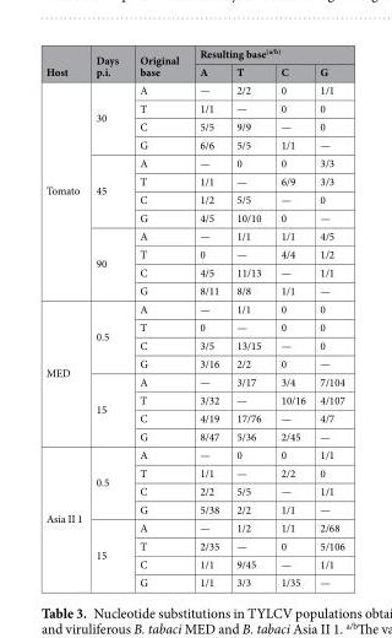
<table><thead><tr><td rowspan="2">Host</td><td rowspan="2">Days p.i.</td><td rowspan="2">Original base</td><td colspan="4">Resulting base<sup>(a/b)</sup></td></tr><tr><td>A</td><td>T</td><td>C</td><td>G</td></tr></thead><tbody><tr><td rowspan="12">Tomato</td><td rowspan="4">30</td><td>A</td><td>—</td><td>2/2</td><td>0</td><td>1/1</td></tr><tr><td>T</td><td>1/1</td><td>—</td><td>0</td><td>0</td></tr><tr><td>C</td><td>5/5</td><td>9/9</td><td>—</td><td>0</td></tr><tr><td>G</td><td>6/6</td><td>5/5</td><td>1/1</td><td>—</td></tr><tr><td rowspan="4">45</td><td>A</td><td>—</td><td>0</td><td>0</td><td>3/3</td></tr><tr><td>T</td><td>1/1</td><td>—</td><td>6/9</td><td>3/3</td></tr><tr><td>C</td><td>1/2</td><td>5/5</td><td>—</td><td>0</td></tr><tr><td>G</td><td>4/5</td><td>10/10</td><td>0</td><td>—</td></tr><tr><td rowspan="4">90</td><td>A</td><td>—</td><td>1/1</td><td>1/1</td><td>4/5</td></tr><tr><td>T</td><td>0</td><td>—</td><td>4/4</td><td>1/2</td></tr><tr><td>C</td><td>4/5</td><td>11/13</td><td>—</td><td>1/1</td></tr><tr><td>G</td><td>8/11</td><td>8/8</td><td>1/1</td><td>—</td></tr><tr><td rowspan="8">MED</td><td rowspan="4">0.5</td><td>A</td><td>—</td><td>1/1</td><td>0</td><td>0</td></tr><tr><td>T</td><td>0</td><td>—</td><td>0</td><td>0</td></tr><tr><td>C</td><td>3/5</td><td>13/15</td><td>—</td><td>0</td></tr><tr><td>G</td><td>3/16</td><td>2/2</td><td>0</td><td>—</td></tr><tr><td rowspan="4">15</td><td>A</td><td>—</td><td>3/17</td><td>3/4</td><td>7/104</td></tr><tr><td>T</td><td>3/32</td><td>—</td><td>10/16</td><td>4/107</td></tr><tr><td>C</td><td>4/19</td><td>17/76</td><td>—</td><td>4/7</td></tr><tr><td>G</td><td>8/47</td><td>5/36</td><td>2/45</td><td>—</td></tr><tr><td rowspan="8">Asia II 1</td><td rowspan="4">0.5</td><td>A</td><td>—</td><td>0</td><td>0</td><td>1/1</td></tr><tr><td>T</td><td>1/1</td><td>—</td><td>2/2</td><td>0</td></tr><tr><td>C</td><td>2/2</td><td>5/5</td><td>—</td><td>1/1</td></tr><tr><td>G</td><td>5/38</td><td>2/2</td><td>1/1</td><td>—</td></tr><tr><td rowspan="4">15</td><td>A</td><td>—</td><td>1/2</td><td>1/1</td><td>2/68</td></tr><tr><td>T</td><td>2/35</td><td>—</td><td>0</td><td>5/106</td></tr><tr><td>C</td><td>1/1</td><td>9/45</td><td>—</td><td>1/1</td></tr><tr><td>G</td><td>1/1</td><td>3/3</td><td>1/35</td><td>—</td></tr></tbody></table>